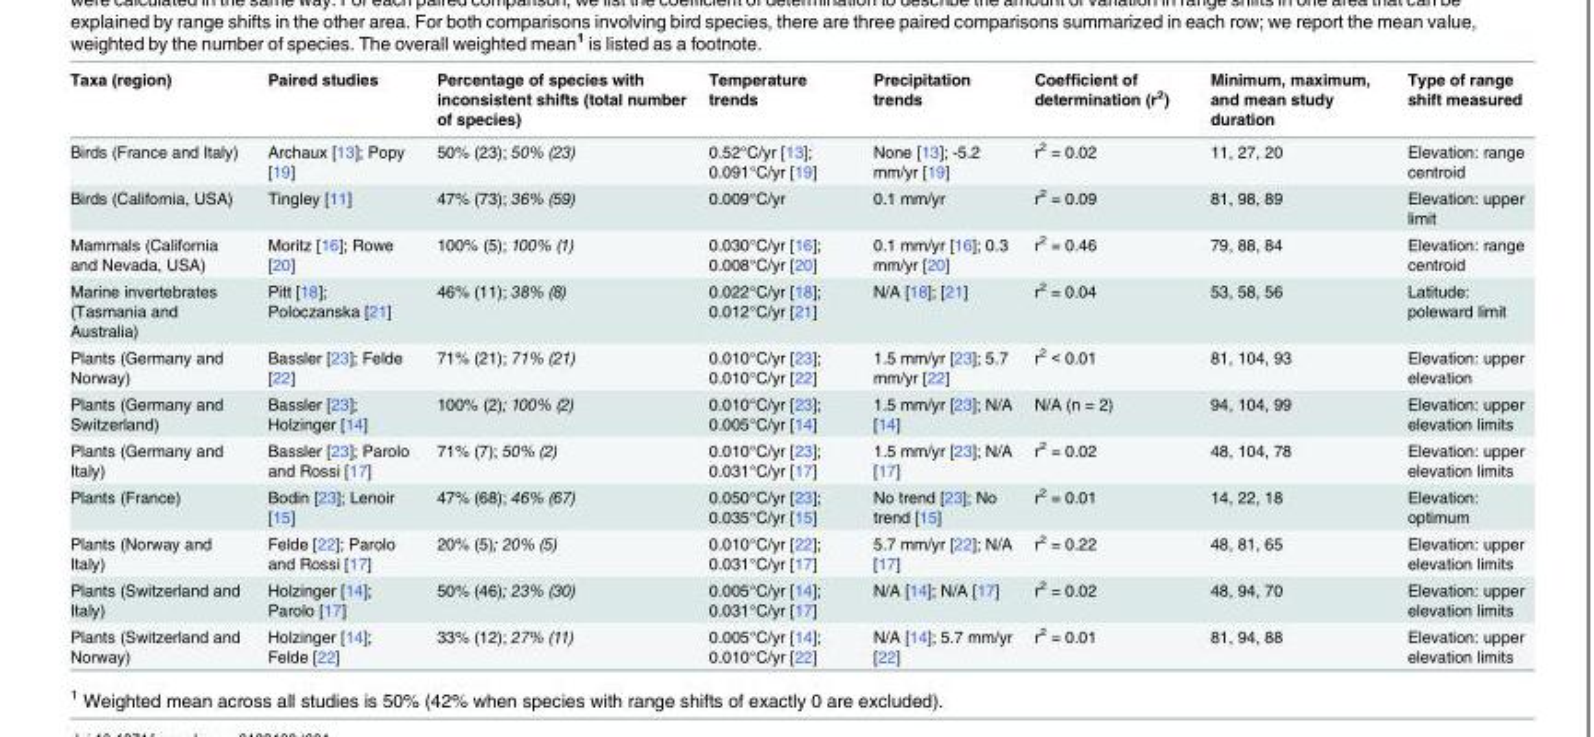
<table><thead><tr><td>Taxa (region)</td><td>Paired studies</td><td>Percentage of species with inconsistent shifts (total number of species)</td><td>Temperature trends</td><td>Precipitation trends</td><td>Coefficient of determination (r<sup>2</sup>)</td><td>Minimum, maximum, and mean study duration</td><td>Type of range shift measured</td></tr></thead><tbody><tr><td>Birds (France and Italy)</td><td>Archaux [13]; Popy [19]</td><td>50% (23); 50% (23)</td><td>0.52°C/yr [13]; 0.091°C/yr [19]</td><td>None [13]; -5.2 mm/yr [19]</td><td>r<sup>2</sup> = 0.02</td><td>11, 27, 20</td><td>Elevation: range centroid</td></tr><tr><td>Birds (California, USA)</td><td>Tingley [11]</td><td>47% (73); 36% (59)</td><td>0.009°C/yr</td><td>0.1 mm/yr</td><td>r<sup>2</sup> = 0.09</td><td>81, 98, 89</td><td>Elevation: upper limit</td></tr><tr><td>Mammals (California and Nevada, USA)</td><td>Moritz [16]; Rowe [20]</td><td>100% (5); 100% (1)</td><td>0.030°C/yr [16]; 0.008°C/yr [20]</td><td>0.1 mm/yr [16]; 0.3 mm/yr [20]</td><td>r<sup>2</sup> = 0.46</td><td>79, 88, 84</td><td>Elevation: range centroid</td></tr><tr><td>Marine invertebrates (Tasmania and Australia)</td><td>Pitt [18]; Poloczanska [21]</td><td>46% (11); 38% (8)</td><td>0.022°C/yr [18]; 0.012°C/yr [21]</td><td>N/A [18]; [21]</td><td>r<sup>2</sup> = 0.04</td><td>53, 58, 56</td><td>Latitude: poleward limit</td></tr><tr><td>Plants (Germany and Norway)</td><td>Bassler [23]; Felde [22]</td><td>71% (21); 71% (21)</td><td>0.010°C/yr [23]; 0.010°C/yr [22]</td><td>1.5 mm/yr [23]; 5.7 mm/yr [22]</td><td>r<sup>2</sup> &lt; 0.01</td><td>81, 104, 93</td><td>Elevation: upper elevation</td></tr><tr><td>Plants (Germany and Switzerland)</td><td>Bassler [23]; Holzinger [14]</td><td>100% (2); 100% (2)</td><td>0.010°C/yr [23]; 0.005°C/yr [14]</td><td>1.5 mm/yr [23]; N/A [14]</td><td>N/A (n = 2)</td><td>94, 104, 99</td><td>Elevation: upper elevation limits</td></tr><tr><td>Plants (Germany and Italy)</td><td>Bassler [23]; Parolo and Rossi [17]</td><td>71% (7); 50% (2)</td><td>0.010°C/yr [23]; 0.031°C/yr [17]</td><td>1.5 mm/yr [23]; N/A [17]</td><td>r<sup>2</sup> = 0.02</td><td>48, 104, 78</td><td>Elevation: upper elevation limits</td></tr><tr><td>Plants (France)</td><td>Bodin [23]; Lenoir [15]</td><td>47% (68); 46% (67)</td><td>0.050°C/yr [23]; 0.035°C/yr [15]</td><td>No trend [23]; No trend [15]</td><td>r<sup>2</sup> = 0.01</td><td>14, 22, 18</td><td>Elevation: optimum</td></tr><tr><td>Plants (Norway and Italy)</td><td>Felde [22]; Parolo and Rossi [17]</td><td>20% (5); 20% (5)</td><td>0.010°C/yr [22]; 0.031°C/yr [17]</td><td>5.7 mm/yr [22]; N/A [17]</td><td>r<sup>2</sup> = 0.22</td><td>48, 81, 65</td><td>Elevation: upper elevation limits</td></tr><tr><td>Plants (Switzerland and Italy)</td><td>Holzinger [14]; Parolo [17]</td><td>50% (46); 23% (30)</td><td>0.005°C/yr [14]; 0.031°C/yr [17]</td><td>N/A [14]; N/A [17]</td><td>r<sup>2</sup> = 0.02</td><td>48, 94, 70</td><td>Elevation: upper elevation limits</td></tr><tr><td>Plants (Switzerland and Norway)</td><td>Holzinger [14]; Felde [22]</td><td>33% (12); 27% (11)</td><td>0.005°C/yr [14]; 0.010°C/yr [22]</td><td>N/A [14]; 5.7 mm/yr [22]</td><td>r<sup>2</sup> = 0.01</td><td>81, 94, 88</td><td>Elevation: upper elevation limits</td></tr></tbody></table>